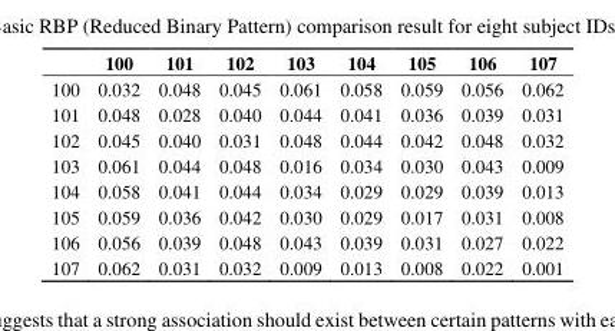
<table><thead><tr><td></td><td>100</td><td>101</td><td>102</td><td>103</td><td>104</td><td>105</td><td>106</td><td>107</td></tr></thead><tbody><tr><td>100</td><td>0.032</td><td>0.048</td><td>0.045</td><td>0.061</td><td>0.058</td><td>0.059</td><td>0.056</td><td>0.062</td></tr><tr><td>101</td><td>0.048</td><td>0.028</td><td>0.040</td><td>0.044</td><td>0.041</td><td>0.036</td><td>0.039</td><td>0.031</td></tr><tr><td>102</td><td>0.045</td><td>0.040</td><td>0.031</td><td>0.048</td><td>0.044</td><td>0.042</td><td>0.048</td><td>0.032</td></tr><tr><td>103</td><td>0.061</td><td>0.044</td><td>0.048</td><td>0.016</td><td>0.034</td><td>0.030</td><td>0.043</td><td>0.009</td></tr><tr><td>104</td><td>0.058</td><td>0.041</td><td>0.044</td><td>0.034</td><td>0.029</td><td>0.029</td><td>0.039</td><td>0.013</td></tr><tr><td>105</td><td>0.059</td><td>0.036</td><td>0.042</td><td>0.030</td><td>0.029</td><td>0.017</td><td>0.031</td><td>0.008</td></tr><tr><td>106</td><td>0.056</td><td>0.039</td><td>0.048</td><td>0.043</td><td>0.039</td><td>0.031</td><td>0.027</td><td>0.022</td></tr><tr><td>107</td><td>0.062</td><td>0.031</td><td>0.032</td><td>0.009</td><td>0.013</td><td>0.008</td><td>0.022</td><td>0.001</td></tr></tbody></table>